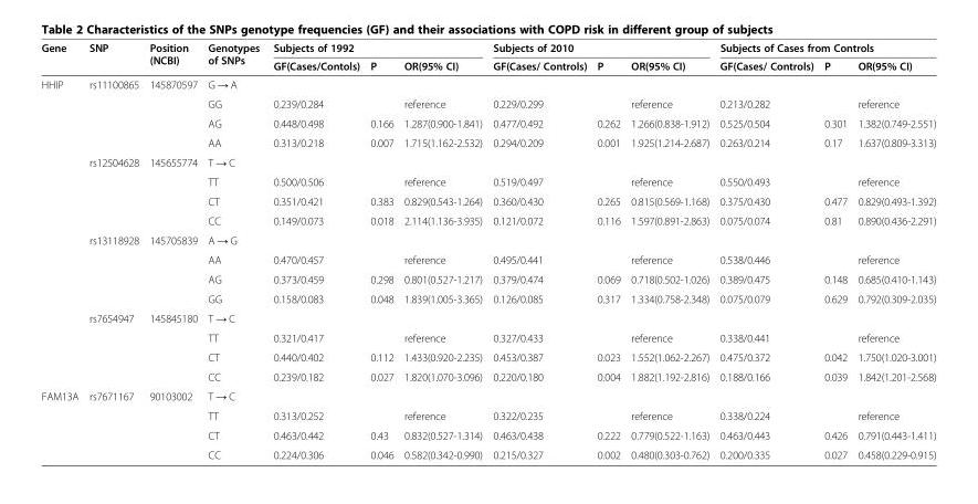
<table><thead><tr><td rowspan="2">Gene</td><td rowspan="2">SNP</td><td rowspan="2">Position (NCBI)</td><td rowspan="2">Genotypes of SNPs</td><td colspan="3">Subjects of 1992</td><td colspan="3">Subjects of 2010</td><td colspan="3">Subjects of Cases from Controls</td></tr><tr><td>GF(Cases/Contols)</td><td>P</td><td>OR(95% CI)</td><td>GF(Cases/ Controls)</td><td>P</td><td>OR(95% CI)</td><td>GF(Cases/ Controls)</td><td>P</td><td>OR(95% CI)</td></tr></thead><tbody><tr><td rowspan="16">HHIP</td><td>rs11100865</td><td>145870597</td><td>G → A</td><td></td><td></td><td></td><td></td><td></td><td></td><td></td><td></td><td></td></tr><tr><td></td><td></td><td>GG</td><td>0.239/0.284</td><td></td><td>reference</td><td>0.229/0.299</td><td></td><td>reference</td><td>0.213/0.282</td><td></td><td>reference</td></tr><tr><td></td><td></td><td>AG</td><td>0.448/0.498</td><td>0.166</td><td>1.287(0.900-1.841)</td><td>0.477/0.492</td><td>0.262</td><td>1.266(0.838-1.912)</td><td>0.525/0.504</td><td>0.301</td><td>1.382(0.749-2.551)</td></tr><tr><td></td><td></td><td>AA</td><td>0.313/0.218</td><td>0.007</td><td>1.715(1.162-2.532)</td><td>0.294/0.209</td><td>0.001</td><td>1.925(1.214-2.687)</td><td>0.263/0.214</td><td>0.17</td><td>1.637(0.809-3.313)</td></tr><tr><td>rs12504628</td><td>145655774</td><td>T → C</td><td></td><td></td><td></td><td></td><td></td><td></td><td></td><td></td><td></td></tr><tr><td></td><td></td><td>TT</td><td>0.500/0.506</td><td></td><td>reference</td><td>0.519/0.497</td><td></td><td>reference</td><td>0.550/0.493</td><td></td><td>reference</td></tr><tr><td></td><td></td><td>CT</td><td>0.351/0.421</td><td>0.383</td><td>0.829(0.543-1.264)</td><td>0.360/0.430</td><td>0.265</td><td>0.815(0.569-1.168)</td><td>0.375/0.430</td><td>0.477</td><td>0.829(0.493-1.392)</td></tr><tr><td></td><td></td><td>CC</td><td>0.149/0.073</td><td>0.018</td><td>2.114(1.136-3.935)</td><td>0.121/0.072</td><td>0.116</td><td>1.597(0.891-2.863)</td><td>0.075/0.074</td><td>0.81</td><td>0.890(0.436-2.291)</td></tr><tr><td>rs13118928</td><td>145705839</td><td>A → G</td><td></td><td></td><td></td><td></td><td></td><td></td><td></td><td></td><td></td></tr><tr><td></td><td></td><td>AA</td><td>0.470/0.457</td><td></td><td>reference</td><td>0.495/0.441</td><td></td><td>reference</td><td>0.538/0.446</td><td></td><td>reference</td></tr><tr><td></td><td></td><td>AG</td><td>0.373/0.459</td><td>0.298</td><td>0.801(0.527-1.217)</td><td>0.379/0.474</td><td>0.069</td><td>0.718(0.502-1.026)</td><td>0.389/0.475</td><td>0.148</td><td>0.685(0.410-1.143)</td></tr><tr><td></td><td></td><td>GG</td><td>0.158/0.083</td><td>0.048</td><td>1.839(1.005-3.365)</td><td>0.126/0.085</td><td>0.317</td><td>1.334(0.758-2.348)</td><td>0.075/0.079</td><td>0.629</td><td>0.792(0.309-2.035)</td></tr><tr><td>rs7654947</td><td>145845180</td><td>T → C</td><td></td><td></td><td></td><td></td><td></td><td></td><td></td><td></td><td></td></tr><tr><td></td><td></td><td>TT</td><td>0.321/0.417</td><td></td><td>reference</td><td>0.327/0.433</td><td></td><td>reference</td><td>0.338/0.441</td><td></td><td>reference</td></tr><tr><td></td><td></td><td>CT</td><td>0.440/0.402</td><td>0.112</td><td>1.433(0.920-2.235)</td><td>0.453/0.387</td><td>0.023</td><td>1.552(1.062-2.267)</td><td>0.475/0.372</td><td>0.042</td><td>1.750(1.020-3.001)</td></tr><tr><td></td><td></td><td>CC</td><td>0.239/0.182</td><td>0.027</td><td>1.820(1.070-3.096)</td><td>0.220/0.180</td><td>0.004</td><td>1.882(1.192-2.816)</td><td>0.188/0.166</td><td>0.039</td><td>1.842(1.201-2.568)</td></tr><tr><td rowspan="4">FAM13A</td><td>rs7671167</td><td>90103002</td><td>T → C</td><td></td><td></td><td></td><td></td><td></td><td></td><td></td><td></td><td></td></tr><tr><td></td><td></td><td>TT</td><td>0.313/0.252</td><td></td><td>reference</td><td>0.322/0.235</td><td></td><td>reference</td><td>0.338/0.224</td><td></td><td>reference</td></tr><tr><td></td><td></td><td>CT</td><td>0.463/0.442</td><td>0.43</td><td>0.832(0.527-1.314)</td><td>0.463/0.438</td><td>0.222</td><td>0.779(0.522-1.163)</td><td>0.463/0.443</td><td>0.426</td><td>0.791(0.443-1.411)</td></tr><tr><td></td><td></td><td>CC</td><td>0.224/0.306</td><td>0.046</td><td>0.582(0.342-0.990)</td><td>0.215/0.327</td><td>0.002</td><td>0.480(0.303-0.762)</td><td>0.200/0.335</td><td>0.027</td><td>0.458(0.229-0.915)</td></tr></tbody></table>